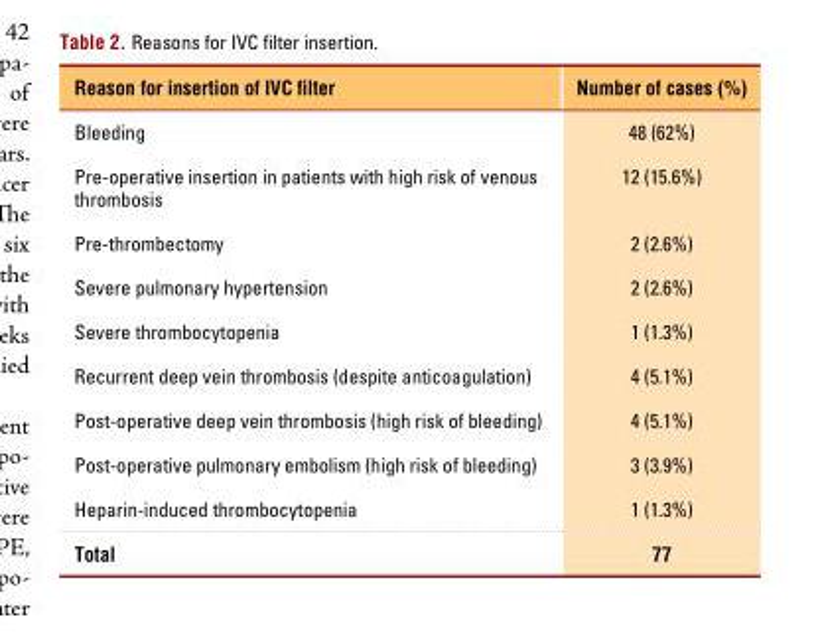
<table><thead><tr><td>Reason for insertion of IVC filter</td><td>Number of cases (%)</td></tr></thead><tbody><tr><td>Bleeding</td><td>48 (62%)</td></tr><tr><td>Pre-operative insertion in patients with high risk of venous thrombosis</td><td>12 (15.6%)</td></tr><tr><td>Pre-thrombectomy</td><td>2 (2.6%)</td></tr><tr><td>Severe pulmonary hypertension</td><td>2 (2.6%)</td></tr><tr><td>Severe thrombocytopenia</td><td>1 (1.3%)</td></tr><tr><td>Recurrent deep vein thrombosis (despite anticoagulation)</td><td>4 (5.1%)</td></tr><tr><td>Post-operative deep vein thrombosis (high risk of bleeding)</td><td>4 (5.1%)</td></tr><tr><td>Post-operative pulmonary embolism (high risk of bleeding)</td><td>3 (3.9%)</td></tr><tr><td>Heparin-induced thrombocytopenia</td><td>1 (1.3%)</td></tr><tr><td>Total</td><td>77</td></tr></tbody></table>